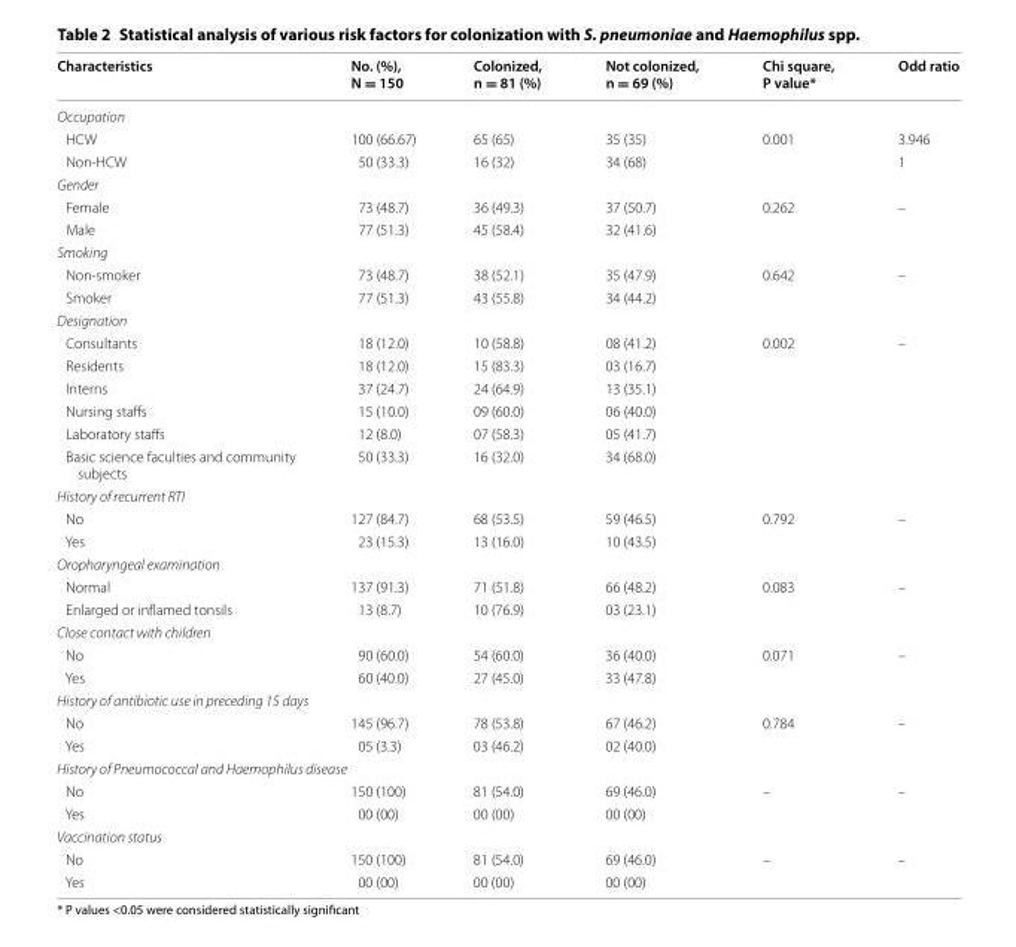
<table><thead><tr><td>Characteristics</td><td>No. (%), N = 150</td><td>Colonized, n = 81 (%)</td><td>Not colonized, n = 69 (%)</td><td>Chi square, P value*</td><td>Odd ratio</td></tr></thead><tbody><tr><td colspan="6">Occupation</td></tr><tr><td>HCW</td><td>100 (66.67)</td><td>65 (65)</td><td>35 (35)</td><td rowspan="2">0.001</td><td>3.946</td></tr><tr><td>Non-HCW</td><td>50 (33.3)</td><td>16 (32)</td><td>34 (68)</td><td>1</td></tr><tr><td colspan="6">Gender</td></tr><tr><td>Female</td><td>73 (48.7)</td><td>36 (49.3)</td><td>37 (50.7)</td><td rowspan="2">0.262</td><td rowspan="2">–</td></tr><tr><td>Male</td><td>77 (51.3)</td><td>45 (58.4)</td><td>32 (41.6)</td></tr><tr><td colspan="6">Smoking</td></tr><tr><td>Non-smoker</td><td>73 (48.7)</td><td>38 (52.1)</td><td>35 (47.9)</td><td rowspan="2">0.642</td><td rowspan="2">–</td></tr><tr><td>Smoker</td><td>77 (51.3)</td><td>43 (55.8)</td><td>34 (44.2)</td></tr><tr><td colspan="6">Designation</td></tr><tr><td>Consultants</td><td>18 (12.0)</td><td>10 (58.8)</td><td>08 (41.2)</td><td rowspan="6">0.002</td><td rowspan="6">–</td></tr><tr><td>Residents</td><td>18 (12.0)</td><td>15 (83.3)</td><td>03 (16.7)</td></tr><tr><td>Interns</td><td>37 (24.7)</td><td>24 (64.9)</td><td>13 (35.1)</td></tr><tr><td>Nursing staffs</td><td>15 (10.0)</td><td>09 (60.0)</td><td>06 (40.0)</td></tr><tr><td>Laboratory staffs</td><td>12 (8.0)</td><td>07 (58.3)</td><td>05 (41.7)</td></tr><tr><td>Basic science faculties and community subjects</td><td>50 (33.3)</td><td>16 (32.0)</td><td>34 (68.0)</td></tr><tr><td colspan="6">History of recurrent RTI</td></tr><tr><td>No</td><td>127 (84.7)</td><td>68 (53.5)</td><td>59 (46.5)</td><td rowspan="2">0.792</td><td rowspan="2">–</td></tr><tr><td>Yes</td><td>23 (15.3)</td><td>13 (16.0)</td><td>10 (43.5)</td></tr><tr><td colspan="6">Oropharyngeal examination</td></tr><tr><td>Normal</td><td>137 (91.3)</td><td>71 (51.8)</td><td>66 (48.2)</td><td rowspan="2">0.083</td><td rowspan="2">–</td></tr><tr><td>Enlarged or inflamed tonsils</td><td>13 (8.7)</td><td>10 (76.9)</td><td>03 (23.1)</td></tr><tr><td colspan="6">Close contact with children</td></tr><tr><td>No</td><td>90 (60.0)</td><td>54 (60.0)</td><td>36 (40.0)</td><td rowspan="2">0.071</td><td rowspan="2">–</td></tr><tr><td>Yes</td><td>60 (40.0)</td><td>27 (45.0)</td><td>33 (47.8)</td></tr><tr><td colspan="6">History of antibiotic use in preceding 15 days</td></tr><tr><td>No</td><td>145 (96.7)</td><td>78 (53.8)</td><td>67 (46.2)</td><td rowspan="2">0.784</td><td rowspan="2">–</td></tr><tr><td>Yes</td><td>05 (3.3)</td><td>03 (46.2)</td><td>02 (40.0)</td></tr><tr><td colspan="6">History of Pneumococcal and Haemophilus disease</td></tr><tr><td>No</td><td>150 (100)</td><td>81 (54.0)</td><td>69 (46.0)</td><td rowspan="2">–</td><td rowspan="2">–</td></tr><tr><td>Yes</td><td>00 (00)</td><td>00 (00)</td><td>00 (00)</td></tr><tr><td colspan="6">Vaccination status</td></tr><tr><td>No</td><td>150 (100)</td><td>81 (54.0)</td><td>69 (46.0)</td><td rowspan="2">–</td><td rowspan="2">–</td></tr><tr><td>Yes</td><td>00 (00)</td><td>00 (00)</td><td>00 (00)</td></tr></tbody></table>